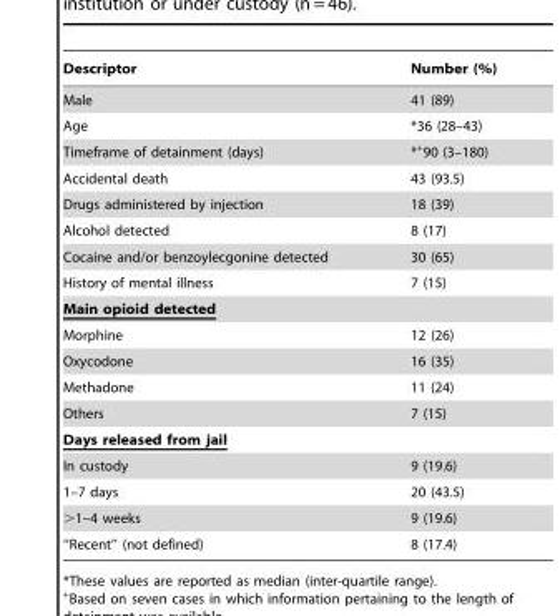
<table><thead><tr><td>Descriptor</td><td>Number (%)</td></tr></thead><tbody><tr><td>Male</td><td>41 (89)</td></tr><tr><td>Age</td><td>*36 (28–43)</td></tr><tr><td>Timeframe of detainment (days)</td><td>*+90 (3–180)</td></tr><tr><td>Accidental death</td><td>43 (93.5)</td></tr><tr><td>Drugs administered by injection</td><td>18 (39)</td></tr><tr><td>Alcohol detected</td><td>8 (17)</td></tr><tr><td>Cocaine and/or benzoylecgonine detected</td><td>30 (65)</td></tr><tr><td>History of mental illness</td><td>7 (15)</td></tr><tr><td colspan="2">Main opioid detected</td></tr><tr><td>Morphine</td><td>12 (26)</td></tr><tr><td>Oxycodone</td><td>16 (35)</td></tr><tr><td>Methadone</td><td>11 (24)</td></tr><tr><td>Others</td><td>7 (15)</td></tr><tr><td colspan="2">Days released from jail</td></tr><tr><td>In custody</td><td>9 (19.6)</td></tr><tr><td>1–7 days</td><td>20 (43.5)</td></tr><tr><td>&gt;1–4 weeks</td><td>9 (19.6)</td></tr><tr><td>‘‘Recent’’ (not defined)</td><td>8 (17.4)</td></tr></tbody></table>